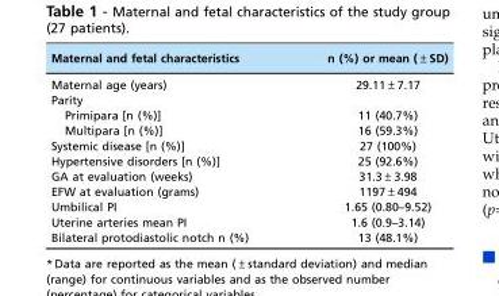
<table><thead><tr><td>Maternal and fetal characteristics</td><td>n (%) or mean (±SD)</td></tr></thead><tbody><tr><td>Maternal age (years)</td><td>29.11±7.17</td></tr><tr><td colspan="2">Parity</td></tr><tr><td>Primipara [n (%)]</td><td>11 (40.7%)</td></tr><tr><td>Multipara [n (%)]</td><td>16 (59.3%)</td></tr><tr><td>Systemic disease [n (%)]</td><td>27 (100%)</td></tr><tr><td>Hypertensive disorders [n (%)]</td><td>25 (92.6%)</td></tr><tr><td>GA at evaluation (weeks)</td><td>31.3±3.98</td></tr><tr><td>EFW at evaluation (grams)</td><td>1197±494</td></tr><tr><td>Umbilical PI</td><td>1.65 (0.80–9.52)</td></tr><tr><td>Uterine arteries mean PI</td><td>1.6 (0.9–3.14)</td></tr><tr><td>Bilateral protodiastolic notch n (%)</td><td>13 (48.1%)</td></tr></tbody></table>